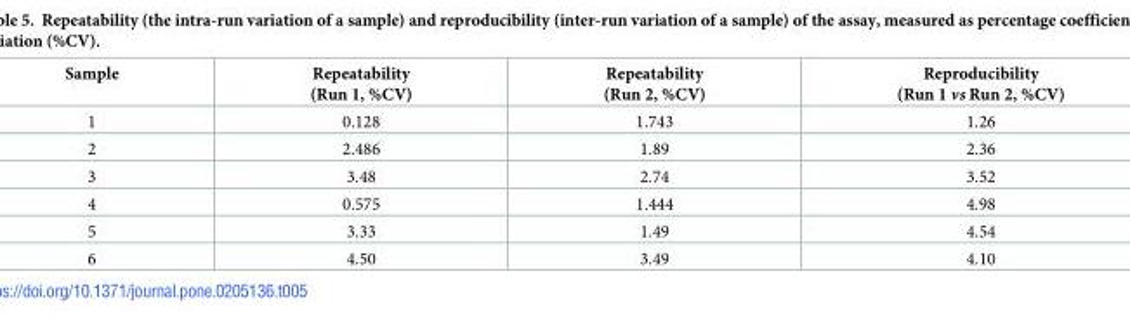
<table><thead><tr><td>Sample</td><td>Repeatability (Run 1, %CV)</td><td>Repeatability (Run 2, %CV)</td><td>Reproducibility (Run 1 vs Run 2, %CV)</td></tr></thead><tbody><tr><td>1</td><td>0.128</td><td>1.743</td><td>1.26</td></tr><tr><td>2</td><td>2.486</td><td>1.89</td><td>2.36</td></tr><tr><td>3</td><td>3.48</td><td>2.74</td><td>3.52</td></tr><tr><td>4</td><td>0.575</td><td>1.444</td><td>4.98</td></tr><tr><td>5</td><td>3.33</td><td>1.49</td><td>4.54</td></tr><tr><td>6</td><td>4.50</td><td>3.49</td><td>4.10</td></tr></tbody></table>